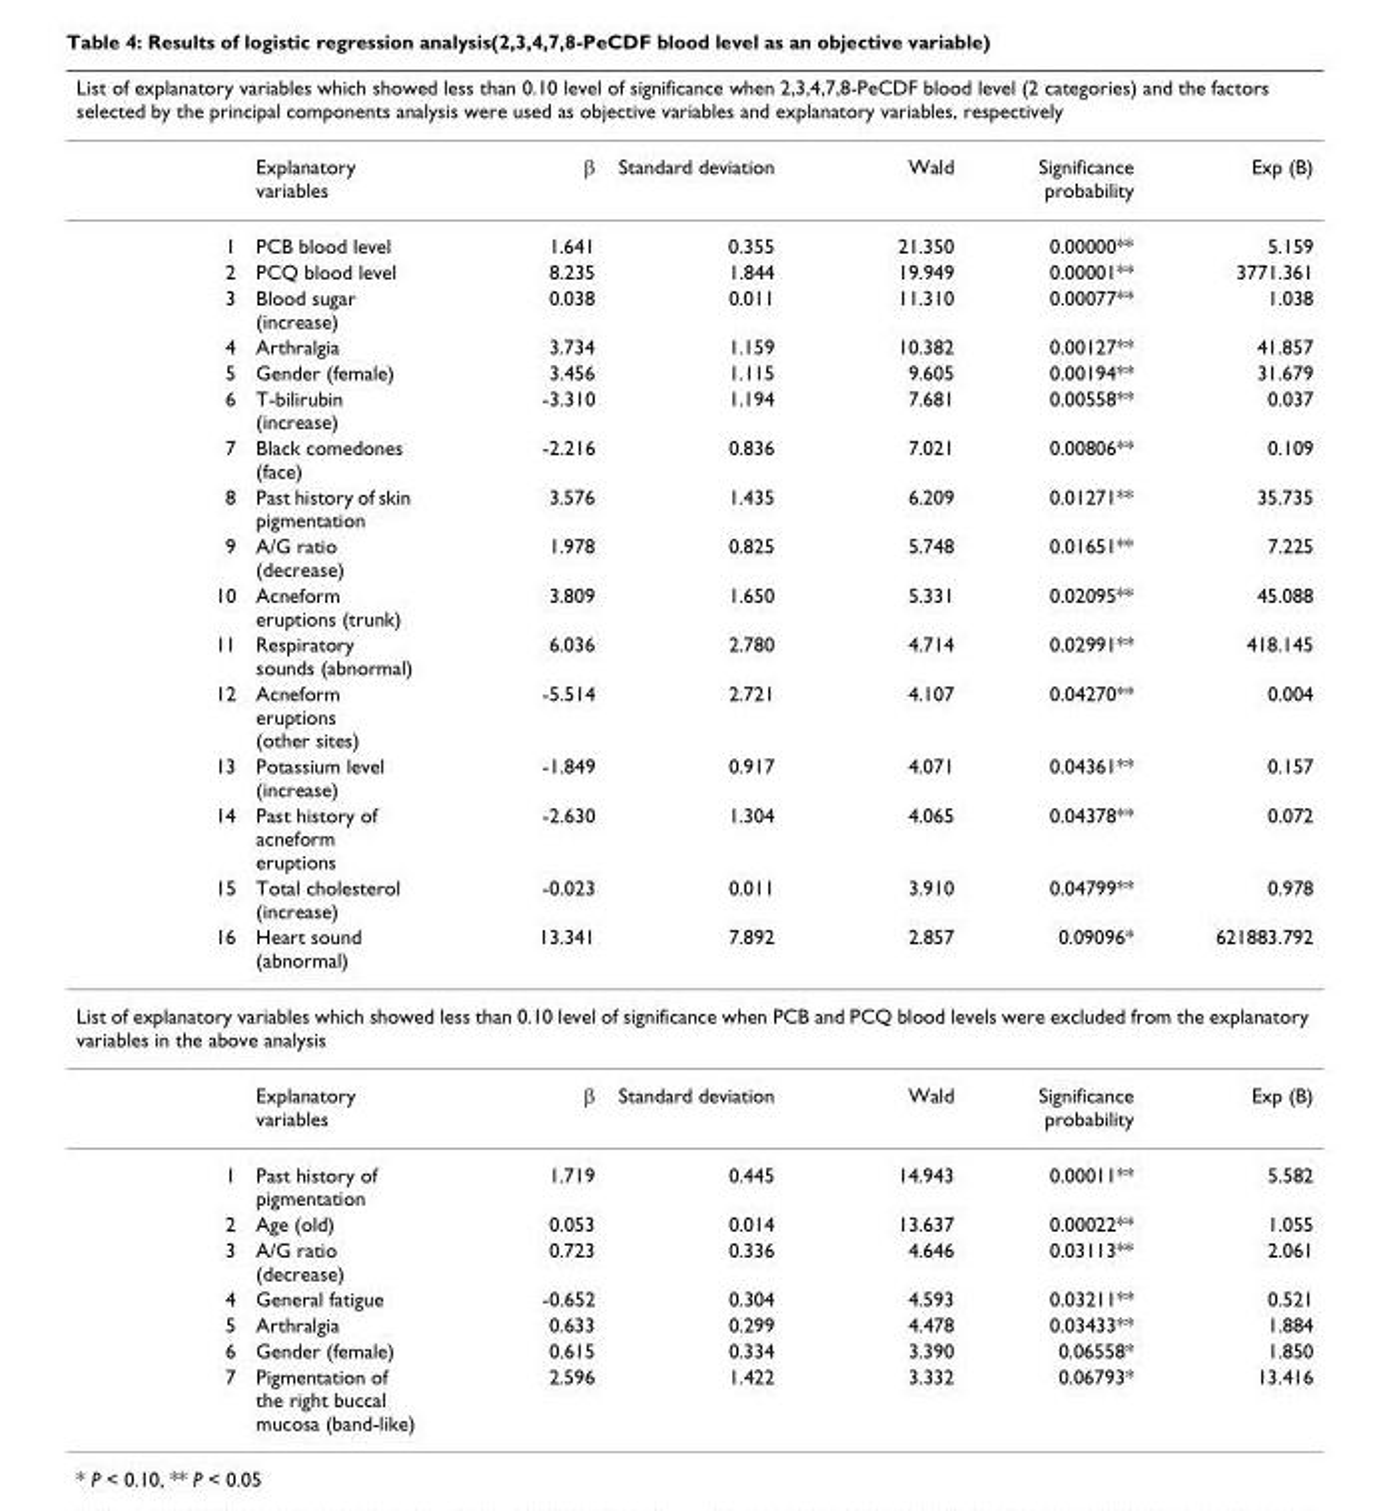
<table><thead><tr><td colspan="7">List of explanatory variables which showed less than 0.10 level of significance when 2,3,4,7,8-PeCDF blood level (2 categories) and the factors selected by the principal components analysis were used as objective variables and explanatory variables, respectively</td></tr><tr><td></td><td>Explanatory variables</td><td>β</td><td>Standard deviation</td><td>Wald</td><td>Significance probability</td><td>Exp (B)</td></tr></thead><tbody><tr><td>1</td><td>PCB blood level</td><td>1.641</td><td>0.355</td><td>21.350</td><td>0.00000**</td><td>5.159</td></tr><tr><td>2</td><td>PCQ blood level</td><td>8.235</td><td>1.844</td><td>19.949</td><td>0.00001**</td><td>3771.361</td></tr><tr><td>3</td><td>Blood sugar (increase)</td><td>0.038</td><td>0.011</td><td>11.310</td><td>0.00077**</td><td>1.038</td></tr><tr><td>4</td><td>Arthralgia</td><td>3.734</td><td>1.159</td><td>10.382</td><td>0.00127**</td><td>41.857</td></tr><tr><td>5</td><td>Gender (female)</td><td>3.456</td><td>1.115</td><td>9.605</td><td>0.00194**</td><td>31.679</td></tr><tr><td>6</td><td>T-bilirubin (increase)</td><td>-3.310</td><td>1.194</td><td>7.681</td><td>0.00558**</td><td>0.037</td></tr><tr><td>7</td><td>Black comedones (face)</td><td>-2.216</td><td>0.836</td><td>7.021</td><td>0.00806**</td><td>0.109</td></tr><tr><td>8</td><td>Past history of skin pigmentation</td><td>3.576</td><td>1.435</td><td>6.209</td><td>0.01271**</td><td>35.735</td></tr><tr><td>9</td><td>A/G ratio (decrease)</td><td>1.978</td><td>0.825</td><td>5.748</td><td>0.01651**</td><td>7.225</td></tr><tr><td>10</td><td>Acneform eruptions (trunk)</td><td>3.809</td><td>1.650</td><td>5.331</td><td>0.02095**</td><td>45.088</td></tr><tr><td>11</td><td>Respiratory sounds (abnormal)</td><td>6.036</td><td>2.780</td><td>4.714</td><td>0.02991**</td><td>418.145</td></tr><tr><td>12</td><td>Acneform eruptions (other sites)</td><td>-5.514</td><td>2.721</td><td>4.107</td><td>0.04270**</td><td>0.004</td></tr><tr><td>13</td><td>Potassium level (increase)</td><td>-1.849</td><td>0.917</td><td>4.071</td><td>0.04361**</td><td>0.157</td></tr><tr><td>14</td><td>Past history of acneform eruptions</td><td>-2.630</td><td>1.304</td><td>4.065</td><td>0.04378**</td><td>0.072</td></tr><tr><td>15</td><td>Total cholesterol (increase)</td><td>-0.023</td><td>0.011</td><td>3.910</td><td>0.04799**</td><td>0.978</td></tr><tr><td>16</td><td>Heart sound (abnormal)</td><td>13.341</td><td>7.892</td><td>2.857</td><td>0.09096*</td><td>621883.792</td></tr><tr><td colspan="7">List of explanatory variables which showed less than 0.10 level of significance when PCB and PCQ blood levels were excluded from the explanatory variables in the above analysis</td></tr><tr><td></td><td>Explanatory variables</td><td>β</td><td>Standard deviation</td><td>Wald</td><td>Significance probability</td><td>Exp (B)</td></tr><tr><td>1</td><td>Past history of pigmentation</td><td>1.719</td><td>0.445</td><td>14.943</td><td>0.00011**</td><td>5.582</td></tr><tr><td>2</td><td>Age (old)</td><td>0.053</td><td>0.014</td><td>13.637</td><td>0.00022**</td><td>1.055</td></tr><tr><td>3</td><td>A/G ratio (decrease)</td><td>0.723</td><td>0.336</td><td>4.646</td><td>0.03113**</td><td>2.061</td></tr><tr><td>4</td><td>General fatigue</td><td>-0.652</td><td>0.304</td><td>4.593</td><td>0.03211**</td><td>0.521</td></tr><tr><td>5</td><td>Arthralgia</td><td>0.633</td><td>0.299</td><td>4.478</td><td>0.03433**</td><td>1.884</td></tr><tr><td>6</td><td>Gender (female)</td><td>0.615</td><td>0.334</td><td>3.390</td><td>0.06558*</td><td>1.850</td></tr><tr><td>7</td><td>Pigmentation of the right buccal mucosa (band-like)</td><td>2.596</td><td>1.422</td><td>3.332</td><td>0.06793*</td><td>13.416</td></tr></tbody></table>